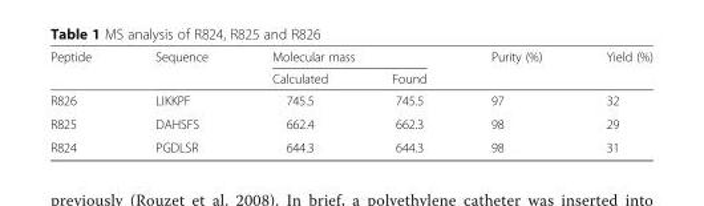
<table><thead><tr><td rowspan="2">Peptide</td><td rowspan="2">Sequence</td><td colspan="2">Molecular mass</td><td rowspan="2">Purity (%)</td><td rowspan="2">Yield (%)</td></tr><tr><td>Calculated</td><td>Found</td></tr></thead><tbody><tr><td>R826</td><td>LIKKPF</td><td>745.5</td><td>745.5</td><td>97</td><td>32</td></tr><tr><td>R825</td><td>DAHSFS</td><td>662.4</td><td>662.3</td><td>98</td><td>29</td></tr><tr><td>R824</td><td>PGDLSR</td><td>644.3</td><td>644.3</td><td>98</td><td>31</td></tr></tbody></table>